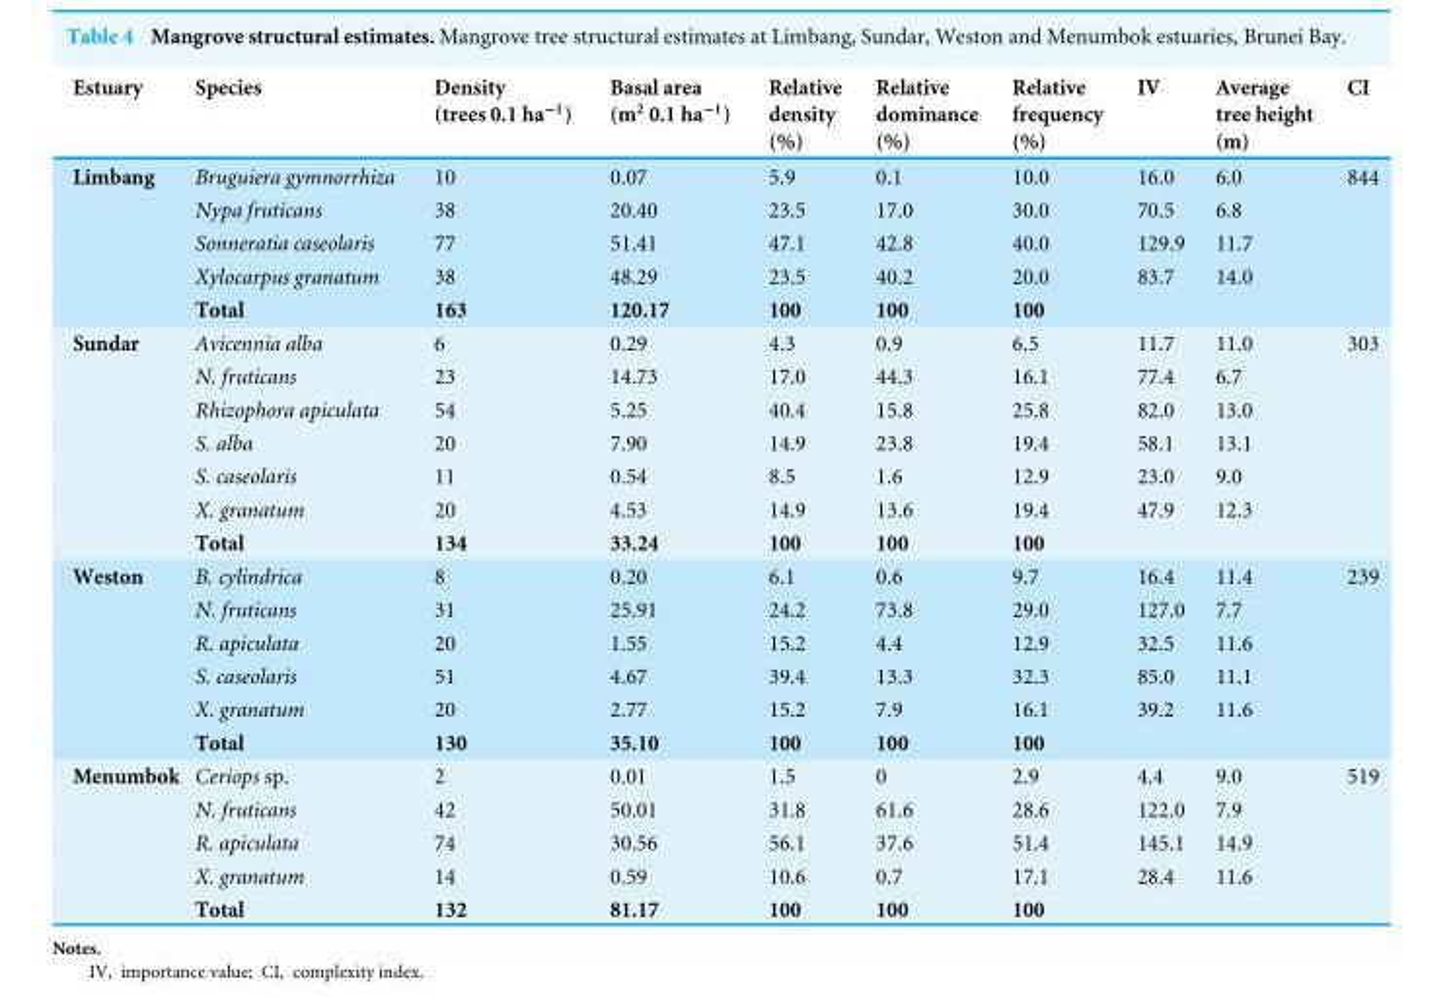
<table><thead><tr><td>Estuary</td><td>Species</td><td>Density (trees 0.1 ha<sup>−1</sup>)</td><td>Basal area (m<sup>2</sup> 0.1 ha<sup>−1</sup>)</td><td>Relative density (%)</td><td>Relative dominance (%)</td><td>Relative frequency (%)</td><td>IV</td><td>Average tree height (m)</td><td>CI</td></tr></thead><tbody><tr><td rowspan="5">Limbang</td><td>Bruguiera gymnorrhiza</td><td>10</td><td>0.07</td><td>5.9</td><td>0.1</td><td>10.0</td><td>16.0</td><td>6.0</td><td>844</td></tr><tr><td>Nypa fruticans</td><td>38</td><td>20.40</td><td>23.5</td><td>17.0</td><td>30.0</td><td>70.5</td><td>6.8</td><td></td></tr><tr><td>Sonneratia caseolaris</td><td>77</td><td>51.41</td><td>47.1</td><td>42.8</td><td>40.0</td><td>129.9</td><td>11.7</td><td></td></tr><tr><td>Xylocarpus granatum</td><td>38</td><td>48.29</td><td>23.5</td><td>40.2</td><td>20.0</td><td>83.7</td><td>14.0</td><td></td></tr><tr><td>Total</td><td>163</td><td>120.17</td><td>100</td><td>100</td><td>100</td><td></td><td></td><td></td></tr><tr><td rowspan="7">Sundar</td><td>Avicennia alba</td><td>6</td><td>0.29</td><td>4.3</td><td>0.9</td><td>6.5</td><td>11.7</td><td>11.0</td><td>303</td></tr><tr><td>N. fruticans</td><td>23</td><td>14.73</td><td>17.0</td><td>44.3</td><td>16.1</td><td>77.4</td><td>6.7</td><td></td></tr><tr><td>Rhizophora apiculata</td><td>54</td><td>5.25</td><td>40.4</td><td>15.8</td><td>25.8</td><td>82.0</td><td>13.0</td><td></td></tr><tr><td>S. alba</td><td>20</td><td>7.90</td><td>14.9</td><td>23.8</td><td>19.4</td><td>58.1</td><td>13.1</td><td></td></tr><tr><td>S. caseolaris</td><td>11</td><td>0.54</td><td>8.5</td><td>1.6</td><td>12.9</td><td>23.0</td><td>9.0</td><td></td></tr><tr><td>X. granatum</td><td>20</td><td>4.53</td><td>14.9</td><td>13.6</td><td>19.4</td><td>47.9</td><td>12.3</td><td></td></tr><tr><td>Total</td><td>134</td><td>33.24</td><td>100</td><td>100</td><td>100</td><td></td><td></td><td></td></tr><tr><td rowspan="6">Weston</td><td>B. cylindrica</td><td>8</td><td>0.20</td><td>6.1</td><td>0.6</td><td>9.7</td><td>16.4</td><td>11.4</td><td>239</td></tr><tr><td>N. fruticans</td><td>31</td><td>25.91</td><td>24.2</td><td>73.8</td><td>29.0</td><td>127.0</td><td>7.7</td><td></td></tr><tr><td>R. apiculata</td><td>20</td><td>1.55</td><td>15.2</td><td>4.4</td><td>12.9</td><td>32.5</td><td>11.6</td><td></td></tr><tr><td>S. caseolaris</td><td>51</td><td>4.67</td><td>39.4</td><td>13.3</td><td>32.3</td><td>85.0</td><td>11.1</td><td></td></tr><tr><td>X. granatum</td><td>20</td><td>2.77</td><td>15.2</td><td>7.9</td><td>16.1</td><td>39.2</td><td>11.6</td><td></td></tr><tr><td>Total</td><td>130</td><td>35.10</td><td>100</td><td>100</td><td>100</td><td></td><td></td><td></td></tr><tr><td rowspan="5">Menumbok</td><td>Ceriops sp.</td><td>2</td><td>0.01</td><td>1.5</td><td>0</td><td>2.9</td><td>4.4</td><td>9.0</td><td>519</td></tr><tr><td>N. fruticans</td><td>42</td><td>50.01</td><td>31.8</td><td>61.6</td><td>28.6</td><td>122.0</td><td>7.9</td><td></td></tr><tr><td>R. apiculata</td><td>74</td><td>30.56</td><td>56.1</td><td>37.6</td><td>51.4</td><td>145.1</td><td>14.9</td><td></td></tr><tr><td>X. granatum</td><td>14</td><td>0.59</td><td>10.6</td><td>0.7</td><td>17.1</td><td>28.4</td><td>11.6</td><td></td></tr><tr><td>Total</td><td>132</td><td>81.17</td><td>100</td><td>100</td><td>100</td><td></td><td></td><td></td></tr></tbody></table>